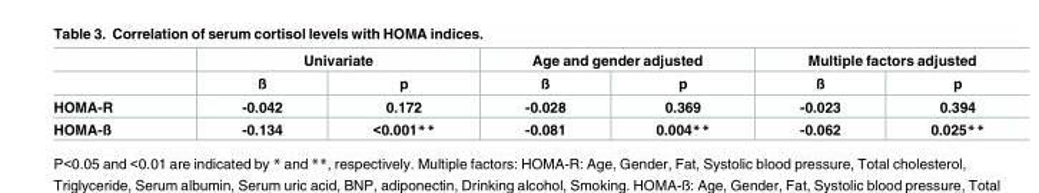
<table><thead><tr><td rowspan="2"></td><td colspan="2">Univariate</td><td colspan="2">Age and gender adjusted</td><td colspan="2">Multiple factors adjusted</td></tr><tr><td>ß</td><td>p</td><td>ß</td><td>p</td><td>ß</td><td>p</td></tr></thead><tbody><tr><td>HOMA-R</td><td>-0.042</td><td>0.172</td><td>-0.028</td><td>0.369</td><td>-0.023</td><td>0.394</td></tr><tr><td>HOMA-ß</td><td>-0.134</td><td>&lt;0.001**</td><td>-0.081</td><td>0.004**</td><td>-0.062</td><td>0.025**</td></tr></tbody></table>